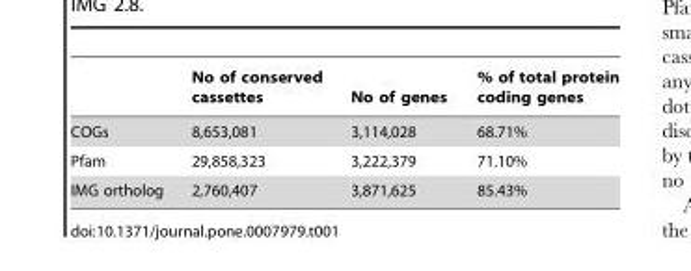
<table><thead><tr><td></td><td>No of conserved cassettes</td><td>No of genes</td><td>% of total protein coding genes</td></tr></thead><tbody><tr><td>COGs</td><td>8,653,081</td><td>3,114,028</td><td>68.71%</td></tr><tr><td>Pfam</td><td>29,858,323</td><td>3,222,379</td><td>71.10%</td></tr><tr><td>IMG ortholog</td><td>2,760,407</td><td>3,871,625</td><td>85.43%</td></tr></tbody></table>